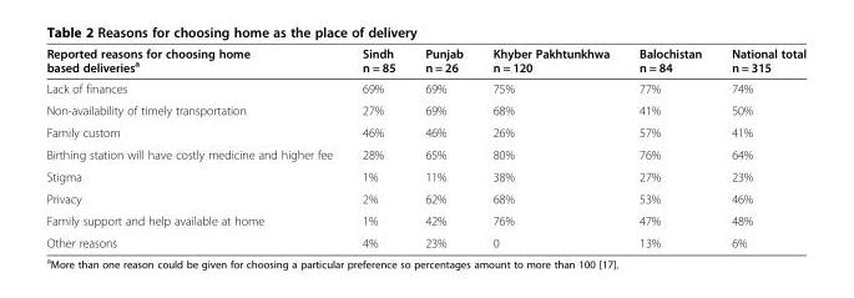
<table><thead><tr><td>Reported reasons for choosing home based deliveries<sup>a</sup></td><td>Sindh n = 85</td><td>Punjab n = 26</td><td>Khyber Pakhtunkhwa n = 120</td><td>Balochistan n = 84</td><td>National total n = 315</td></tr></thead><tbody><tr><td>Lack of finances</td><td>69%</td><td>69%</td><td>75%</td><td>77%</td><td>74%</td></tr><tr><td>Non-availability of timely transportation</td><td>27%</td><td>69%</td><td>68%</td><td>41%</td><td>50%</td></tr><tr><td>Family custom</td><td>46%</td><td>46%</td><td>26%</td><td>57%</td><td>41%</td></tr><tr><td>Birthing station will have costly medicine and higher fee</td><td>28%</td><td>65%</td><td>80%</td><td>76%</td><td>64%</td></tr><tr><td>Stigma</td><td>1%</td><td>11%</td><td>38%</td><td>27%</td><td>23%</td></tr><tr><td>Privacy</td><td>2%</td><td>62%</td><td>68%</td><td>53%</td><td>46%</td></tr><tr><td>Family support and help available at home</td><td>1%</td><td>42%</td><td>76%</td><td>47%</td><td>48%</td></tr><tr><td>Other reasons</td><td>4%</td><td>23%</td><td>0</td><td>13%</td><td>6%</td></tr></tbody></table>